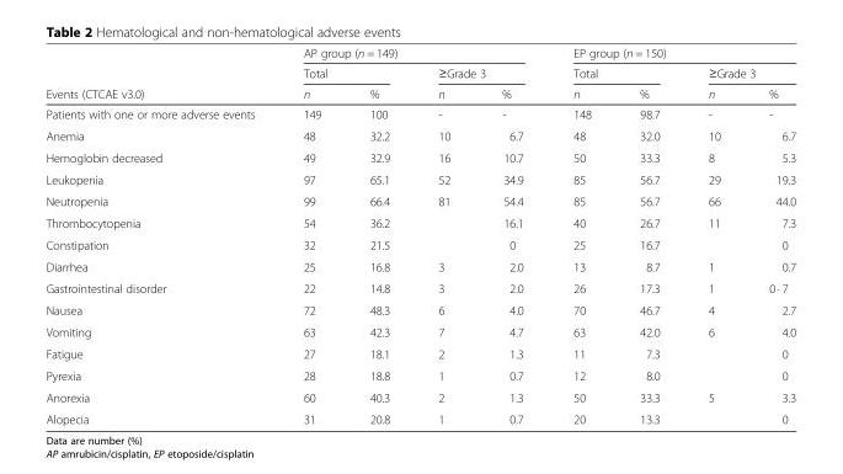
<table><thead><tr><td rowspan="3">Events (CTCAE v3.0)</td><td colspan="4">AP group (n = 149)</td><td colspan="4">EP group (n = 150)</td></tr><tr><td colspan="2">Total</td><td colspan="2">≥Grade 3</td><td colspan="2">Total</td><td colspan="2">≥Grade 3</td></tr><tr><td>n</td><td>%</td><td>n</td><td>%</td><td>n</td><td>%</td><td>n</td><td>%</td></tr></thead><tbody><tr><td>Patients with one or more adverse events</td><td>149</td><td>100</td><td>-</td><td>-</td><td>148</td><td>98.7</td><td>-</td><td>-</td></tr><tr><td>Anemia</td><td>48</td><td>32.2</td><td>10</td><td>6.7</td><td>48</td><td>32.0</td><td>10</td><td>6.7</td></tr><tr><td>Hemoglobin decreased</td><td>49</td><td>32.9</td><td>16</td><td>10.7</td><td>50</td><td>33.3</td><td>8</td><td>5.3</td></tr><tr><td>Leukopenia</td><td>97</td><td>65.1</td><td>52</td><td>34.9</td><td>85</td><td>56.7</td><td>29</td><td>19.3</td></tr><tr><td>Neutropenia</td><td>99</td><td>66.4</td><td>81</td><td>54.4</td><td>85</td><td>56.7</td><td>66</td><td>44.0</td></tr><tr><td>Thrombocytopenia</td><td>54</td><td>36.2</td><td></td><td>16.1</td><td>40</td><td>26.7</td><td>11</td><td>7.3</td></tr><tr><td>Constipation</td><td>32</td><td>21.5</td><td></td><td>0</td><td>25</td><td>16.7</td><td></td><td>0</td></tr><tr><td>Diarrhea</td><td>25</td><td>16.8</td><td>3</td><td>2.0</td><td>13</td><td>8.7</td><td>1</td><td>0.7</td></tr><tr><td>Gastrointestinal disorder</td><td>22</td><td>14.8</td><td>3</td><td>2.0</td><td>26</td><td>17.3</td><td>1</td><td>0 · 7</td></tr><tr><td>Nausea</td><td>72</td><td>48.3</td><td>6</td><td>4.0</td><td>70</td><td>46.7</td><td>4</td><td>2.7</td></tr><tr><td>Vomiting</td><td>63</td><td>42.3</td><td>7</td><td>4.7</td><td>63</td><td>42.0</td><td>6</td><td>4.0</td></tr><tr><td>Fatigue</td><td>27</td><td>18.1</td><td>2</td><td>1.3</td><td>11</td><td>7.3</td><td></td><td>0</td></tr><tr><td>Pyrexia</td><td>28</td><td>18.8</td><td>1</td><td>0.7</td><td>12</td><td>8.0</td><td></td><td>0</td></tr><tr><td>Anorexia</td><td>60</td><td>40.3</td><td>2</td><td>1.3</td><td>50</td><td>33.3</td><td>5</td><td>3.3</td></tr><tr><td>Alopecia</td><td>31</td><td>20.8</td><td>1</td><td>0.7</td><td>20</td><td>13.3</td><td></td><td>0</td></tr></tbody></table>